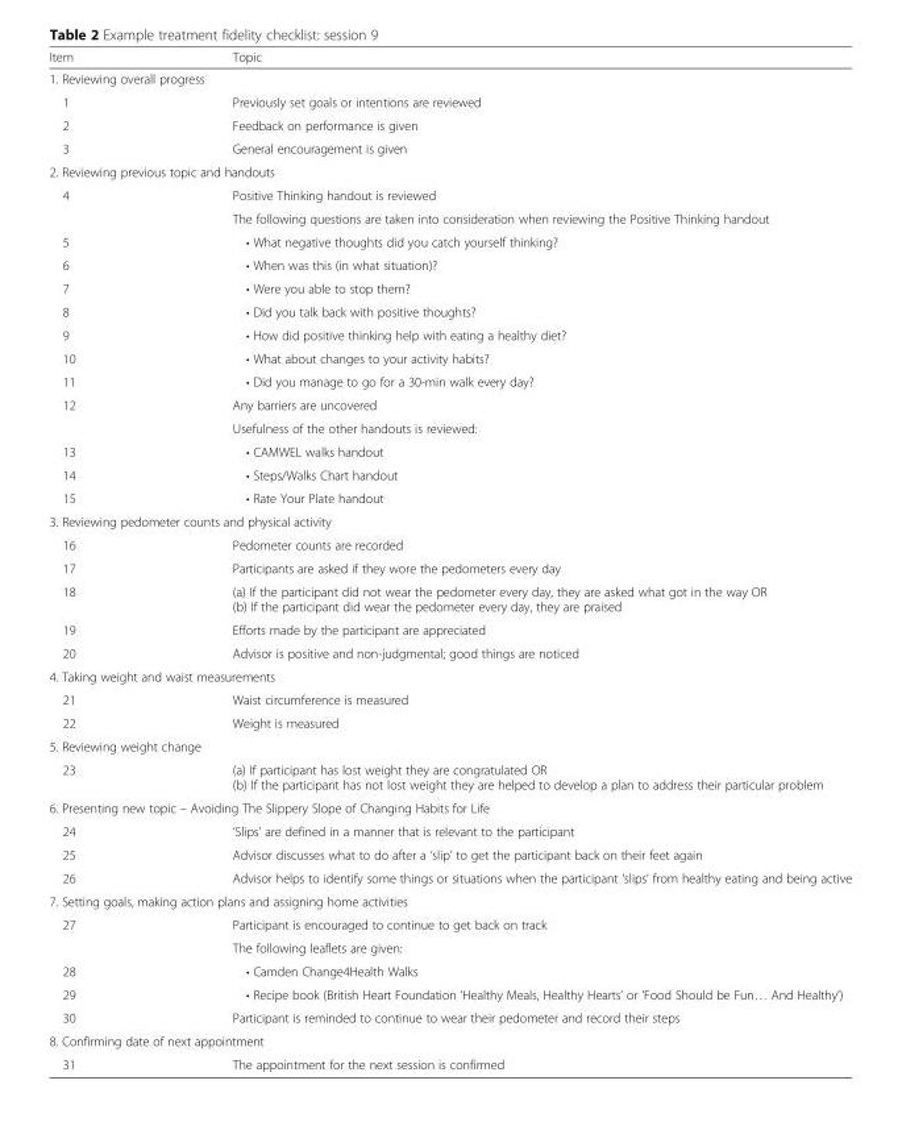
<table><thead><tr><td>Item</td><td>Topic</td></tr></thead><tbody><tr><td colspan="2">1. Reviewing overall progress</td></tr><tr><td>1</td><td>Previously set goals or intentions are reviewed</td></tr><tr><td>2</td><td>Feedback on performance is given</td></tr><tr><td>3</td><td>General encouragement is given</td></tr><tr><td colspan="2">2. Reviewing previous topic and handouts</td></tr><tr><td rowspan="2">4</td><td>Positive Thinking handout is reviewed</td></tr><tr><td>The following questions are taken into consideration when reviewing the Positive Thinking handout</td></tr><tr><td>5</td><td>• What negative thoughts did you catch yourself thinking?</td></tr><tr><td>6</td><td>• When was this (in what situation)?</td></tr><tr><td>7</td><td>• Were you able to stop them?</td></tr><tr><td>8</td><td>• Did you talk back with positive thoughts?</td></tr><tr><td>9</td><td>• How did positive thinking help with eating a healthy diet?</td></tr><tr><td>10</td><td>• What about changes to your activity habits?</td></tr><tr><td>11</td><td>• Did you manage to go for a 30-min walk every day?</td></tr><tr><td rowspan="2">12</td><td>Any barriers are uncovered</td></tr><tr><td>Usefulness of the other handouts is reviewed:</td></tr><tr><td>13</td><td>• CAMWEL walks handout</td></tr><tr><td>14</td><td>• Steps/Walks Chart handout</td></tr><tr><td>15</td><td>• Rate Your Plate handout</td></tr><tr><td colspan="2">3. Reviewing pedometer counts and physical activity</td></tr><tr><td>16</td><td>Pedometer counts are recorded</td></tr><tr><td>17</td><td>Participants are asked if they wore the pedometers every day</td></tr><tr><td>18</td><td>(a) If the participant did not wear the pedometer every day, they are asked what got in the way OR (b) If the participant did wear the pedometer every day, they are praised</td></tr><tr><td>19</td><td>Efforts made by the participant are appreciated</td></tr><tr><td>20</td><td>Advisor is positive and non-judgmental; good things are noticed</td></tr><tr><td colspan="2">4. Taking weight and waist measurements</td></tr><tr><td>21</td><td>Waist circumference is measured</td></tr><tr><td>22</td><td>Weight is measured</td></tr><tr><td colspan="2">5. Reviewing weight change</td></tr><tr><td>23</td><td>(a) If participant has lost weight they are congratulated OR (b) If the participant has not lost weight they are helped to develop a plan to address their particular problem</td></tr><tr><td colspan="2">6. Presenting new topic – Avoiding The Slippery Slope of Changing Habits for Life</td></tr><tr><td>24</td><td>‘Slips’ are defined in a manner that is relevant to the participant</td></tr><tr><td>25</td><td>Advisor discusses what to do after a ‘slip’ to get the participant back on their feet again</td></tr><tr><td>26</td><td>Advisor helps to identify some things or situations when the participant ‘slips’ from healthy eating and being active</td></tr><tr><td colspan="2">7. Setting goals, making action plans and assigning home activities</td></tr><tr><td rowspan="2">27</td><td>Participant is encouraged to continue to get back on track</td></tr><tr><td>The following leaflets are given:</td></tr><tr><td>28</td><td>• Camden Change4Health Walks</td></tr><tr><td>29</td><td>• Recipe book (British Heart Foundation ‘Healthy Meals, Healthy Hearts’ or ‘Food Should be Fun… And Healthy’)</td></tr><tr><td>30</td><td>Participant is reminded to continue to wear their pedometer and record their steps</td></tr><tr><td colspan="2">8. Confirming date of next appointment</td></tr><tr><td>31</td><td>The appointment for the next session is confirmed</td></tr></tbody></table>